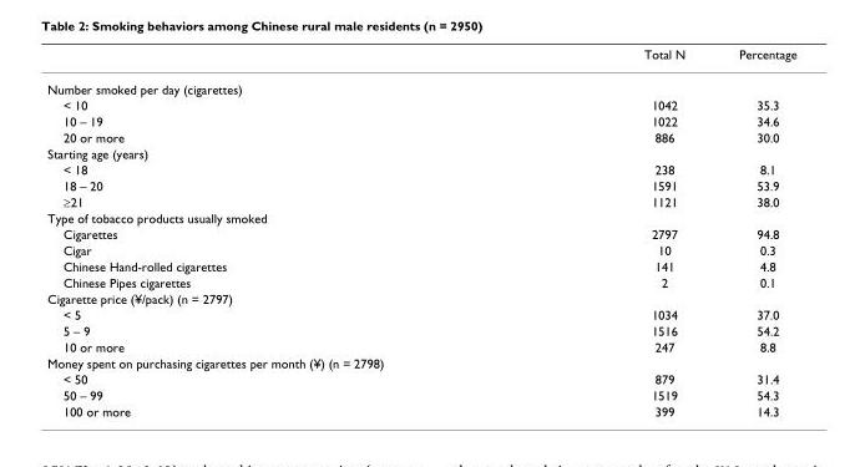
<table><thead><tr><td></td><td>Total N</td><td>Percentage</td></tr></thead><tbody><tr><td colspan="3">Number smoked per day (cigarettes)</td></tr><tr><td>&lt; 10</td><td>1042</td><td>35.3</td></tr><tr><td>10 – 19</td><td>1022</td><td>34.6</td></tr><tr><td>20 or more</td><td>886</td><td>30.0</td></tr><tr><td colspan="3">Starting age (years)</td></tr><tr><td>&lt; 18</td><td>238</td><td>8.1</td></tr><tr><td>18 – 20</td><td>1591</td><td>53.9</td></tr><tr><td>≥21</td><td>1121</td><td>38.0</td></tr><tr><td colspan="3">Type of tobacco products usually smoked</td></tr><tr><td>Cigarettes</td><td>2797</td><td>94.8</td></tr><tr><td>Cigar</td><td>10</td><td>0.3</td></tr><tr><td>Chinese Hand-rolled cigarettes</td><td>141</td><td>4.8</td></tr><tr><td>Chinese Pipes cigarettes</td><td>2</td><td>0.1</td></tr><tr><td colspan="3">Cigarette price (¥/pack) (n = 2797)</td></tr><tr><td>&lt; 5</td><td>1034</td><td>37.0</td></tr><tr><td>5 – 9</td><td>1516</td><td>54.2</td></tr><tr><td>10 or more</td><td>247</td><td>8.8</td></tr><tr><td colspan="3">Money spent on purchasing cigarettes per month (¥) (n = 2798)</td></tr><tr><td>&lt; 50</td><td>879</td><td>31.4</td></tr><tr><td>50 – 99</td><td>1519</td><td>54.3</td></tr><tr><td>100 or more</td><td>399</td><td>14.3</td></tr></tbody></table>